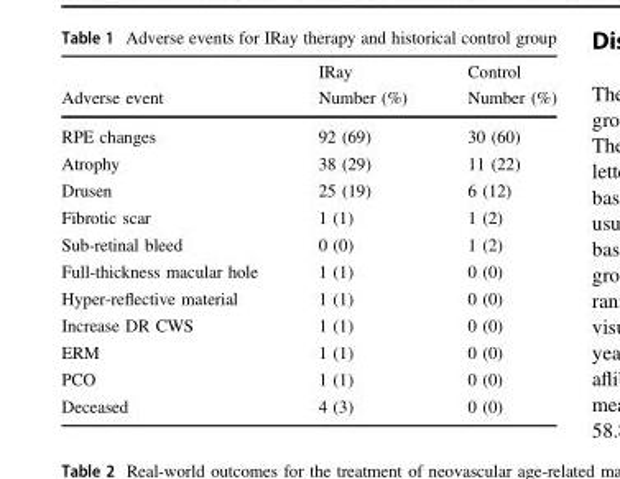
<table><thead><tr><td rowspan="2">Adverse event</td><td rowspan="2">IRay Number (%)</td><td rowspan="2">Control Number (%)</td></tr><tr></tr></thead><tbody><tr><td>RPE changes</td><td>92 (69)</td><td>30 (60)</td></tr><tr><td>Atrophy</td><td>38 (29)</td><td>11 (22)</td></tr><tr><td>Drusen</td><td>25 (19)</td><td>6 (12)</td></tr><tr><td>Fibrotic scar</td><td>1 (1)</td><td>1 (2)</td></tr><tr><td>Sub-retinal bleed</td><td>0 (0)</td><td>1 (2)</td></tr><tr><td>Full-thickness macular hole</td><td>1 (1)</td><td>0 (0)</td></tr><tr><td>Hyper-reflective material</td><td>1 (1)</td><td>0 (0)</td></tr><tr><td>Increase DR CWS</td><td>1 (1)</td><td>0 (0)</td></tr><tr><td>ERM</td><td>1 (1)</td><td>0 (0)</td></tr><tr><td>PCO</td><td>1 (1)</td><td>0 (0)</td></tr><tr><td>Deceased</td><td>4 (3)</td><td>0 (0)</td></tr></tbody></table>